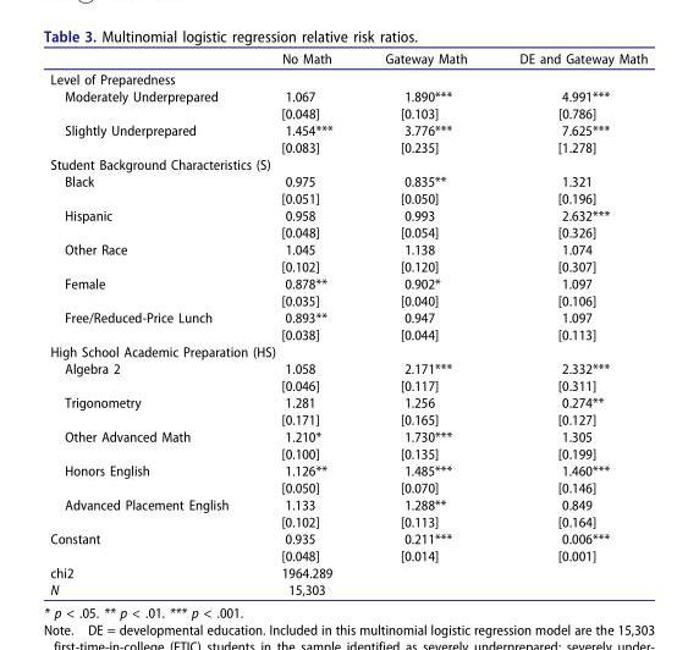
<table><thead><tr><td></td><td>No Math</td><td>Gateway Math</td><td>DE and Gateway Math</td></tr></thead><tbody><tr><td colspan="4">Level of Preparedness</td></tr><tr><td rowspan="2">Moderately Underprepared</td><td>1.067</td><td>1.890***</td><td>4.991***</td></tr><tr><td>[0.048]</td><td>[0.103]</td><td>[0.786]</td></tr><tr><td rowspan="2">Slightly Underprepared</td><td>1.454***</td><td>3.776***</td><td>7.625***</td></tr><tr><td>[0.083]</td><td>[0.235]</td><td>[1.278]</td></tr><tr><td colspan="4">Student Background Characteristics (S)</td></tr><tr><td rowspan="2">Black</td><td>0.975</td><td>0.835**</td><td>1.321</td></tr><tr><td>[0.051]</td><td>[0.050]</td><td>[0.196]</td></tr><tr><td rowspan="2">Hispanic</td><td>0.958</td><td>0.993</td><td>2.632***</td></tr><tr><td>[0.048]</td><td>[0.054]</td><td>[0.326]</td></tr><tr><td rowspan="2">Other Race</td><td>1.045</td><td>1.138</td><td>1.074</td></tr><tr><td>[0.102]</td><td>[0.120]</td><td>[0.307]</td></tr><tr><td rowspan="2">Female</td><td>0.878**</td><td>0.902*</td><td>1.097</td></tr><tr><td>[0.035]</td><td>[0.040]</td><td>[0.106]</td></tr><tr><td rowspan="2">Free/Reduced-Price Lunch</td><td>0.893**</td><td>0.947</td><td>1.097</td></tr><tr><td>[0.038]</td><td>[0.044]</td><td>[0.113]</td></tr><tr><td colspan="4">High School Academic Preparation (HS)</td></tr><tr><td rowspan="2">Algebra 2</td><td>1.058</td><td>2.171***</td><td>2.332***</td></tr><tr><td>[0.046]</td><td>[0.117]</td><td>[0.311]</td></tr><tr><td rowspan="2">Trigonometry</td><td>1.281</td><td>1.256</td><td>0.274**</td></tr><tr><td>[0.171]</td><td>[0.165]</td><td>[0.127]</td></tr><tr><td rowspan="2">Other Advanced Math</td><td>1.210*</td><td>1.730***</td><td>1.305</td></tr><tr><td>[0.100]</td><td>[0.135]</td><td>[0.199]</td></tr><tr><td rowspan="2">Honors English</td><td>1.126**</td><td>1.485***</td><td>1.460***</td></tr><tr><td>[0.050]</td><td>[0.070]</td><td>[0.146]</td></tr><tr><td rowspan="2">Advanced Placement English</td><td>1.133</td><td>1.288**</td><td>0.849</td></tr><tr><td>[0.102]</td><td>[0.113]</td><td>[0.164]</td></tr><tr><td rowspan="2">Constant</td><td>0.935</td><td>0.211***</td><td>0.006***</td></tr><tr><td>[0.048]</td><td>[0.014]</td><td>[0.001]</td></tr><tr><td>chi2</td><td>1964.289</td><td></td><td></td></tr><tr><td>N</td><td>15,303</td><td></td><td></td></tr></tbody></table>